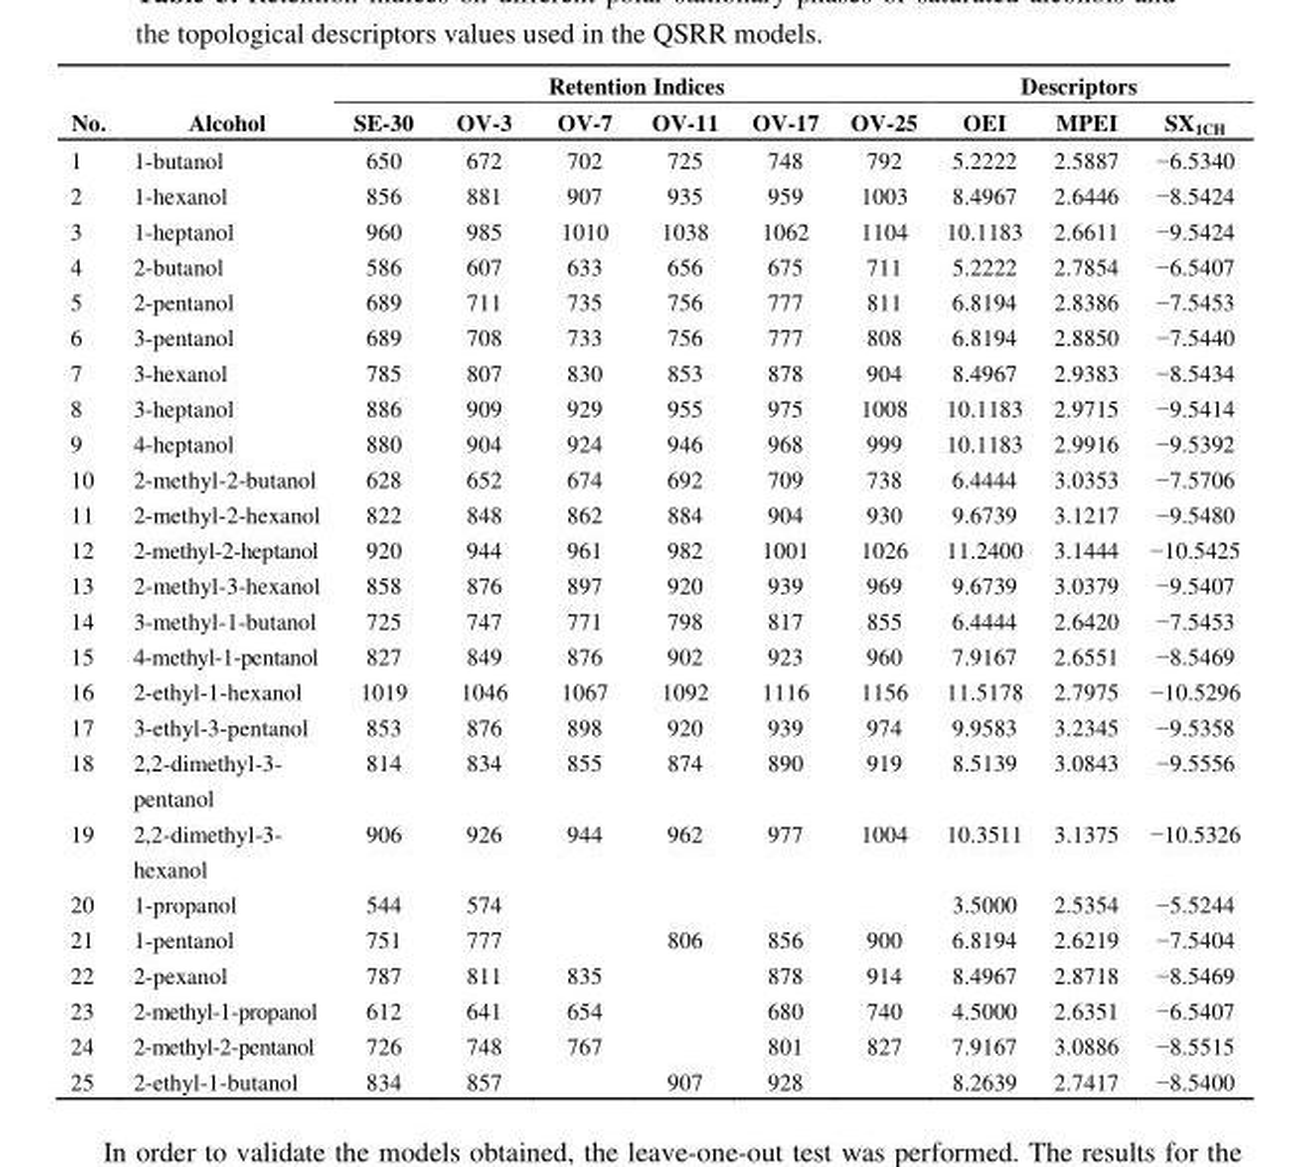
<table><thead><tr><td rowspan="2">No.</td><td rowspan="2">Alcohol</td><td colspan="6">Retention Indices</td><td colspan="3">Descriptors</td></tr><tr><td>SE-30</td><td>OV-3</td><td>OV-7</td><td>OV-11</td><td>OV-17</td><td>OV-25</td><td>OEI</td><td>MPEI</td><td>SX<sub>1CH</sub></td></tr></thead><tbody><tr><td>1</td><td>1-butanol</td><td>650</td><td>672</td><td>702</td><td>725</td><td>748</td><td>792</td><td>5.2222</td><td>2.5887</td><td>−6.5340</td></tr><tr><td>2</td><td>1-hexanol</td><td>856</td><td>881</td><td>907</td><td>935</td><td>959</td><td>1003</td><td>8.4967</td><td>2.6446</td><td>−8.5424</td></tr><tr><td>3</td><td>1-heptanol</td><td>960</td><td>985</td><td>1010</td><td>1038</td><td>1062</td><td>1104</td><td>10.1183</td><td>2.6611</td><td>−9.5424</td></tr><tr><td>4</td><td>2-butanol</td><td>586</td><td>607</td><td>633</td><td>656</td><td>675</td><td>711</td><td>5.2222</td><td>2.7854</td><td>−6.5407</td></tr><tr><td>5</td><td>2-pentanol</td><td>689</td><td>711</td><td>735</td><td>756</td><td>777</td><td>811</td><td>6.8194</td><td>2.8386</td><td>−7.5453</td></tr><tr><td>6</td><td>3-pentanol</td><td>689</td><td>708</td><td>733</td><td>756</td><td>777</td><td>808</td><td>6.8194</td><td>2.8850</td><td>−7.5440</td></tr><tr><td>7</td><td>3-hexanol</td><td>785</td><td>807</td><td>830</td><td>853</td><td>878</td><td>904</td><td>8.4967</td><td>2.9383</td><td>−8.5434</td></tr><tr><td>8</td><td>3-heptanol</td><td>886</td><td>909</td><td>929</td><td>955</td><td>975</td><td>1008</td><td>10.1183</td><td>2.9715</td><td>−9.5414</td></tr><tr><td>9</td><td>4-heptanol</td><td>880</td><td>904</td><td>924</td><td>946</td><td>968</td><td>999</td><td>10.1183</td><td>2.9916</td><td>−9.5392</td></tr><tr><td>10</td><td>2-methyl-2-butanol</td><td>628</td><td>652</td><td>674</td><td>692</td><td>709</td><td>738</td><td>6.4444</td><td>3.0353</td><td>−7.5706</td></tr><tr><td>11</td><td>2-methyl-2-hexanol</td><td>822</td><td>848</td><td>862</td><td>884</td><td>904</td><td>930</td><td>9.6739</td><td>3.1217</td><td>−9.5480</td></tr><tr><td>12</td><td>2-methyl-2-heptanol</td><td>920</td><td>944</td><td>961</td><td>982</td><td>1001</td><td>1026</td><td>11.2400</td><td>3.1444</td><td>−10.5425</td></tr><tr><td>13</td><td>2-methyl-3-hexanol</td><td>858</td><td>876</td><td>897</td><td>920</td><td>939</td><td>969</td><td>9.6739</td><td>3.0379</td><td>−9.5407</td></tr><tr><td>14</td><td>3-methyl-1-butanol</td><td>725</td><td>747</td><td>771</td><td>798</td><td>817</td><td>855</td><td>6.4444</td><td>2.6420</td><td>−7.5453</td></tr><tr><td>15</td><td>4-methyl-1-pentanol</td><td>827</td><td>849</td><td>876</td><td>902</td><td>923</td><td>960</td><td>7.9167</td><td>2.6551</td><td>−8.5469</td></tr><tr><td>16</td><td>2-ethyl-1-hexanol</td><td>1019</td><td>1046</td><td>1067</td><td>1092</td><td>1116</td><td>1156</td><td>11.5178</td><td>2.7975</td><td>−10.5296</td></tr><tr><td>17</td><td>3-ethyl-3-pentanol</td><td>853</td><td>876</td><td>898</td><td>920</td><td>939</td><td>974</td><td>9.9583</td><td>3.2345</td><td>−9.5358</td></tr><tr><td>18</td><td>2,2-dimethyl-3- pentanol</td><td>814</td><td>834</td><td>855</td><td>874</td><td>890</td><td>919</td><td>8.5139</td><td>3.0843</td><td>−9.5556</td></tr><tr><td>19</td><td>2,2-dimethyl-3- hexanol</td><td>906</td><td>926</td><td>944</td><td>962</td><td>977</td><td>1004</td><td>10.3511</td><td>3.1375</td><td>−10.5326</td></tr><tr><td>20</td><td>1-propanol</td><td>544</td><td>574</td><td></td><td></td><td></td><td></td><td>3.5000</td><td>2.5354</td><td>−5.5244</td></tr><tr><td>21</td><td>1-pentanol</td><td>751</td><td>777</td><td></td><td>806</td><td>856</td><td>900</td><td>6.8194</td><td>2.6219</td><td>−7.5404</td></tr><tr><td>22</td><td>2-pexanol</td><td>787</td><td>811</td><td>835</td><td></td><td>878</td><td>914</td><td>8.4967</td><td>2.8718</td><td>−8.5469</td></tr><tr><td>23</td><td>2-methyl-1-propanol</td><td>612</td><td>641</td><td>654</td><td></td><td>680</td><td>740</td><td>4.5000</td><td>2.6351</td><td>−6.5407</td></tr><tr><td>24</td><td>2-methyl-2-pentanol</td><td>726</td><td>748</td><td>767</td><td></td><td>801</td><td>827</td><td>7.9167</td><td>3.0886</td><td>−8.5515</td></tr><tr><td>25</td><td>2-ethyl-1-butanol</td><td>834</td><td>857</td><td></td><td>907</td><td>928</td><td></td><td>8.2639</td><td>2.7417</td><td>−8.5400</td></tr></tbody></table>